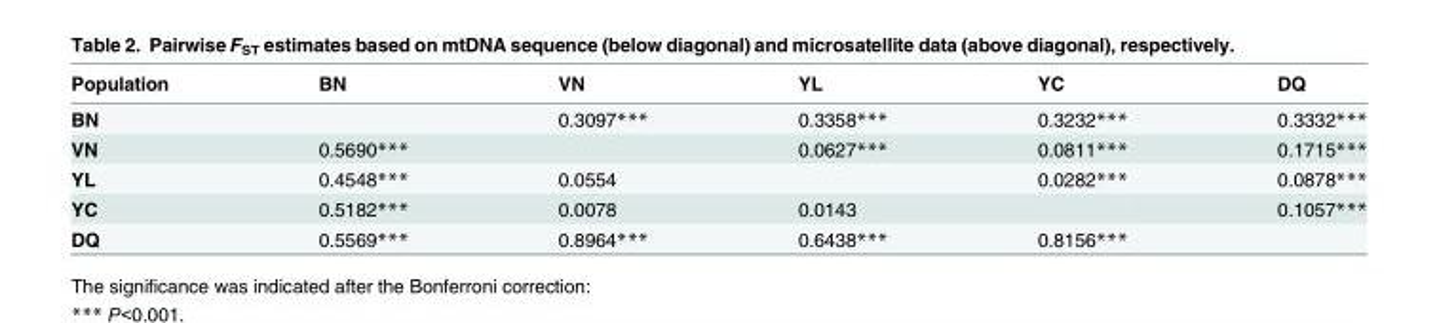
<table><thead><tr><td>Population</td><td>BN</td><td>VN</td><td>YL</td><td>YC</td><td>DQ</td></tr></thead><tbody><tr><td>BN</td><td></td><td>0.3097***</td><td>0.3358***</td><td>0.3232***</td><td>0.3332***</td></tr><tr><td>VN</td><td>0.5690***</td><td></td><td>0.0627***</td><td>0.0811***</td><td>0.1715***</td></tr><tr><td>YL</td><td>0.4548***</td><td>0.0554</td><td></td><td>0.0282***</td><td>0.0878***</td></tr><tr><td>YC</td><td>0.5182***</td><td>0.0078</td><td>0.0143</td><td></td><td>0.1057***</td></tr><tr><td>DQ</td><td>0.5569***</td><td>0.8964***</td><td>0.6438***</td><td>0.8156***</td><td></td></tr></tbody></table>